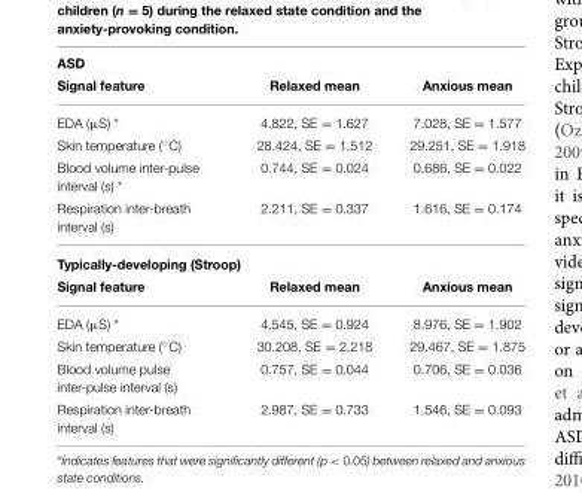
<table><thead><tr><td colspan="3">ASD</td></tr><tr><td>Signal feature</td><td>Relaxed mean</td><td>Anxious mean</td></tr></thead><tbody><tr><td>EDA (µS) *</td><td>4.822, SE = 1.627</td><td>7.028, SE = 1.577</td></tr><tr><td>Skin temperature (◦C)</td><td>28.424, SE = 1.512</td><td>29.251, SE = 1.918</td></tr><tr><td>Blood volume inter-pulse interval (s) *</td><td>0.744, SE = 0.024</td><td>0.686, SE = 0.022</td></tr><tr><td>Respiration inter-breath interval (s)</td><td>2.211, SE = 0.337</td><td>1.616, SE = 0.174</td></tr><tr><td colspan="3">Typically-developing (Stroop)</td></tr><tr><td>Signal feature</td><td>Relaxed mean</td><td>Anxious mean</td></tr><tr><td>EDA (µS) *</td><td>4.545, SE = 0.924</td><td>8.976, SE = 1.902</td></tr><tr><td>Skin temperature (◦C)</td><td>30.208, SE = 2.218</td><td>29.467, SE = 1.875</td></tr><tr><td>Blood volume pulse inter-pulse interval (s)</td><td>0.757, SE = 0.044</td><td>0.706, SE = 0.036</td></tr><tr><td>Respiration inter-breath interval (s)</td><td>2.987, SE = 0.733</td><td>1.546, SE = 0.093</td></tr></tbody></table>